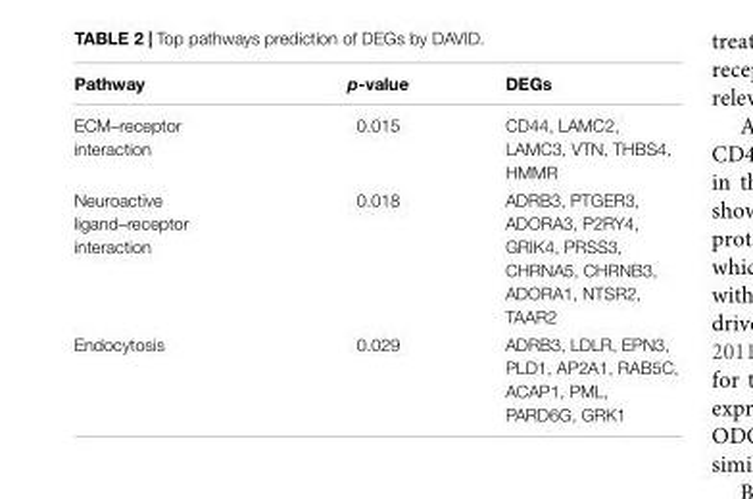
<table><thead><tr><td>Pathway</td><td>p-value</td><td>DEGs</td></tr></thead><tbody><tr><td>ECM–receptor interaction</td><td>0.015</td><td>CD44, LAMC2, LAMC3, VTN, THBS4, HMMR</td></tr><tr><td>Neuroactive ligand–receptor interaction</td><td>0.018</td><td>ADRB3, PTGER3, ADORA3, P2RY4, GRIK4, PRSS3, CHRNA5, CHRNB3, ADORA1, NTSR2, TAAR2</td></tr><tr><td>Endocytosis</td><td>0.029</td><td>ADRB3, LDLR, EPN3, PLD1, AP2A1, RAB5C, ACAP1, PML, PARD6G, GRK1</td></tr></tbody></table>